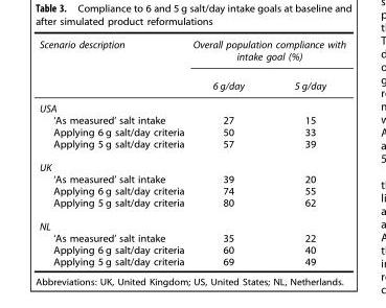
<table><thead><tr><td rowspan="2">Scenario description</td><td colspan="2">Overall population compliance with intake goal (%)</td></tr><tr><td>6 g/day</td><td>5 g/day</td></tr></thead><tbody><tr><td colspan="3">USA</td></tr><tr><td>‘As measured’ salt intake</td><td>27</td><td>15</td></tr><tr><td>Applying 6 g salt/day criteria</td><td>50</td><td>33</td></tr><tr><td>Applying 5 g salt/day criteria</td><td>57</td><td>39</td></tr><tr><td colspan="3">UK</td></tr><tr><td>‘As measured’ salt intake</td><td>39</td><td>20</td></tr><tr><td>Applying 6 g salt/day criteria</td><td>74</td><td>55</td></tr><tr><td>Applying 5 g salt/day criteria</td><td>80</td><td>62</td></tr><tr><td colspan="3">NL</td></tr><tr><td>‘As measured’ salt intake</td><td>35</td><td>22</td></tr><tr><td>Applying 6 g salt/day criteria</td><td>60</td><td>40</td></tr><tr><td>Applying 5 g salt/day criteria</td><td>69</td><td>49</td></tr></tbody></table>